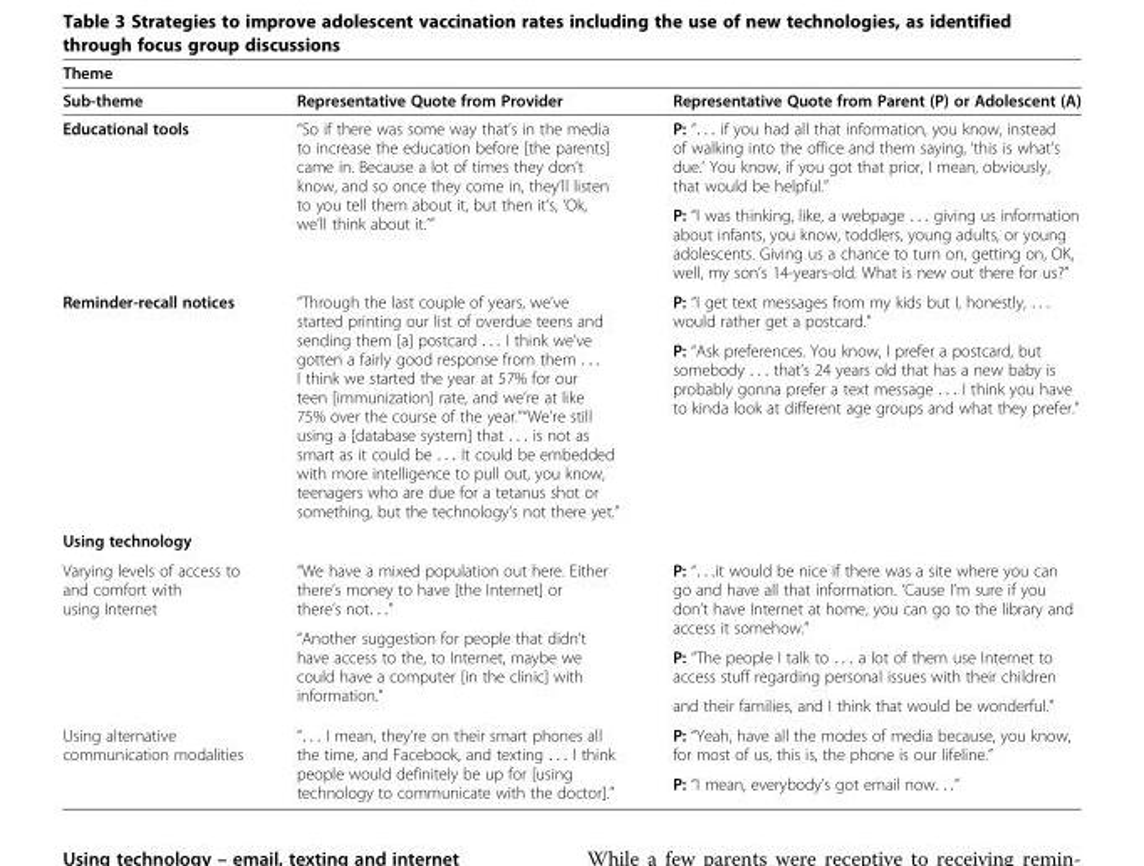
<table><thead><tr><td rowspan="2">Theme Sub-theme</td><td rowspan="2">Representative Quote from Provider</td><td rowspan="2">Representative Quote from Parent (P) or Adolescent (A)</td></tr><tr></tr></thead><tbody><tr><td rowspan="2">Educational tools</td><td rowspan="2">“So if there was some way that’s in the media to increase the education before [the parents] came in. Because a lot of times they don’t know, and so once they come in, they’ll listen to you tell them about it, but then it’s, ‘Ok, we’ll think about it.’”</td><td>P: “. . . if you had all that information, you know, instead of walking into the office and them saying, ‘this is what’s due.’ You know, if you got that prior, I mean, obviously, that would be helpful.”</td></tr><tr><td>P: “I was thinking, like, a webpage . . . giving us information about infants, you know, toddlers, young adults, or young adolescents. Giving us a chance to turn on, getting on, OK, well, my son’s 14-years-old. What is new out there for us?”</td></tr><tr><td rowspan="2">Reminder-recall notices</td><td rowspan="2">“Through the last couple of years, we’ve started printing our list of overdue teens and sending them [a] postcard . . . I think we’ve gotten a fairly good response from them . . . I think we started the year at 57% for our teen [immunization] rate, and we’re at like 75% over the course of the year.”“We’re still using a [database system] that . . . is not as smart as it could be . . . It could be embedded with more intelligence to pull out, you know, teenagers who are due for a tetanus shot or something, but the technology’s not there yet.”</td><td>P: “I get text messages from my kids but I, honestly, . . . would rather get a postcard.”</td></tr><tr><td>P: “Ask preferences. You know, I prefer a postcard, but somebody . . . that’s 24 years old that has a new baby is probably gonna prefer a text message . . . I think you have to kinda look at different age groups and what they prefer.”</td></tr><tr><td colspan="3">Using technology</td></tr><tr><td rowspan="4">Varying levels of access to and comfort with using Internet</td><td>“We have a mixed population out here. Either there’s money to have [the Internet] or there’s not. . .”</td><td rowspan="2">P: “. . .it would be nice if there was a site where you can go and have all that information. ‘Cause I’m sure if you don’t have Internet at home, you can go to the library and access it somehow.”</td></tr><tr><td rowspan="3">“Another suggestion for people that didn’t have access to the, to Internet, maybe we could have a computer [in the clinic] with information.”</td></tr><tr><td>P: “The people I talk to . . . a lot of them use Internet to access stuff regarding personal issues with their children</td></tr><tr><td>and their families, and I think that would be wonderful.”</td></tr><tr><td rowspan="2">Using alternative communication modalities</td><td rowspan="2">“. . . I mean, they’re on their smart phones all the time, and Facebook, and texting . . . I think people would definitely be up for [using technology to communicate with the doctor].”</td><td>P: “Yeah, have all the modes of media because, you know, for most of us, this is, the phone is our lifeline.”</td></tr><tr><td>P: “I mean, everybody’s got email now. . .”</td></tr></tbody></table>